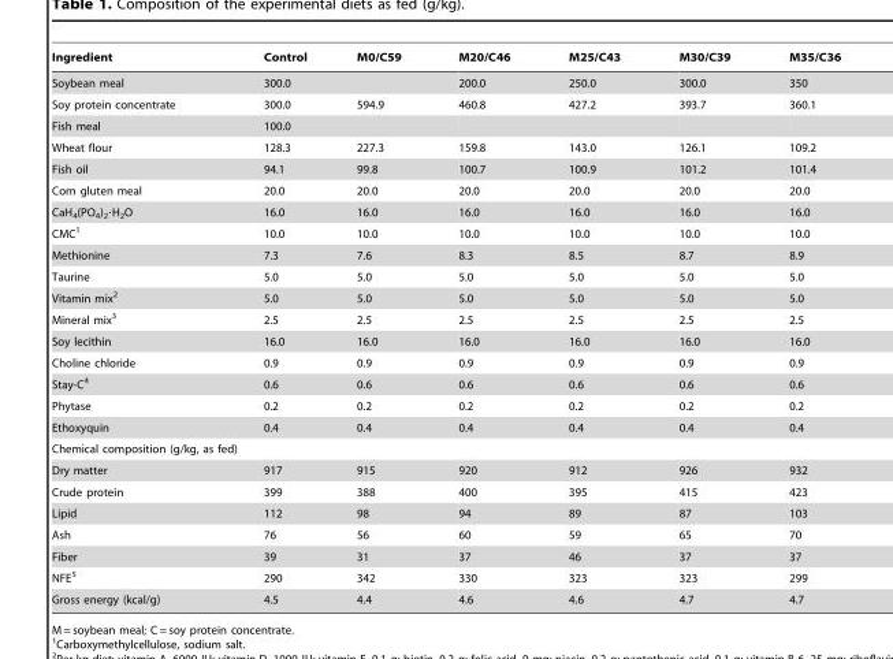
<table><thead><tr><td>Ingredient</td><td>Control</td><td>M0/C59</td><td>M20/C46</td><td>M25/C43</td><td>M30/C39</td><td>M35/C36</td></tr></thead><tbody><tr><td>Soybean meal</td><td>300.0</td><td></td><td>200.0</td><td>250.0</td><td>300.0</td><td>350</td></tr><tr><td>Soy protein concentrate</td><td>300.0</td><td>594.9</td><td>460.8</td><td>427.2</td><td>393.7</td><td>360.1</td></tr><tr><td>Fish meal</td><td>100.0</td><td></td><td></td><td></td><td></td><td></td></tr><tr><td>Wheat flour</td><td>128.3</td><td>227.3</td><td>159.8</td><td>143.0</td><td>126.1</td><td>109.2</td></tr><tr><td>Fish oil</td><td>94.1</td><td>99.8</td><td>100.7</td><td>100.9</td><td>101.2</td><td>101.4</td></tr><tr><td>Corn gluten meal</td><td>20.0</td><td>20.0</td><td>20.0</td><td>20.0</td><td>20.0</td><td>20.0</td></tr><tr><td>CaH<sub>4</sub>(PO<sub>4</sub>)<sub>2</sub>·H<sub>2</sub>O</td><td>16.0</td><td>16.0</td><td>16.0</td><td>16.0</td><td>16.0</td><td>16.0</td></tr><tr><td>CMC<sup>1</sup></td><td>10.0</td><td>10.0</td><td>10.0</td><td>10.0</td><td>10.0</td><td>10.0</td></tr><tr><td>Methionine</td><td>7.3</td><td>7.6</td><td>8.3</td><td>8.5</td><td>8.7</td><td>8.9</td></tr><tr><td>Taurine</td><td>5.0</td><td>5.0</td><td>5.0</td><td>5.0</td><td>5.0</td><td>5.0</td></tr><tr><td>Vitamin mix<sup>2</sup></td><td>5.0</td><td>5.0</td><td>5.0</td><td>5.0</td><td>5.0</td><td>5.0</td></tr><tr><td>Mineral mix<sup>3</sup></td><td>2.5</td><td>2.5</td><td>2.5</td><td>2.5</td><td>2.5</td><td>2.5</td></tr><tr><td>Soy lecithin</td><td>16.0</td><td>16.0</td><td>16.0</td><td>16.0</td><td>16.0</td><td>16.0</td></tr><tr><td>Choline chloride</td><td>0.9</td><td>0.9</td><td>0.9</td><td>0.9</td><td>0.9</td><td>0.9</td></tr><tr><td>Stay-C<sup>4</sup></td><td>0.6</td><td>0.6</td><td>0.6</td><td>0.6</td><td>0.6</td><td>0.6</td></tr><tr><td>Phytase</td><td>0.2</td><td>0.2</td><td>0.2</td><td>0.2</td><td>0.2</td><td>0.2</td></tr><tr><td>Ethoxyquin</td><td>0.4</td><td>0.4</td><td>0.4</td><td>0.4</td><td>0.4</td><td>0.4</td></tr><tr><td colspan="7">Chemical composition (g/kg, as fed)</td></tr><tr><td>Dry matter</td><td>917</td><td>915</td><td>920</td><td>912</td><td>926</td><td>932</td></tr><tr><td>Crude protein</td><td>399</td><td>388</td><td>400</td><td>395</td><td>415</td><td>423</td></tr><tr><td>Lipid</td><td>112</td><td>98</td><td>94</td><td>89</td><td>87</td><td>103</td></tr><tr><td>Ash</td><td>76</td><td>56</td><td>60</td><td>59</td><td>65</td><td>70</td></tr><tr><td>Fiber</td><td>39</td><td>31</td><td>37</td><td>46</td><td>37</td><td>37</td></tr><tr><td>NFE<sup>5</sup></td><td>290</td><td>342</td><td>330</td><td>323</td><td>323</td><td>299</td></tr><tr><td>Gross energy (kcal/g)</td><td>4.5</td><td>4.4</td><td>4.6</td><td>4.6</td><td>4.7</td><td>4.7</td></tr></tbody></table>